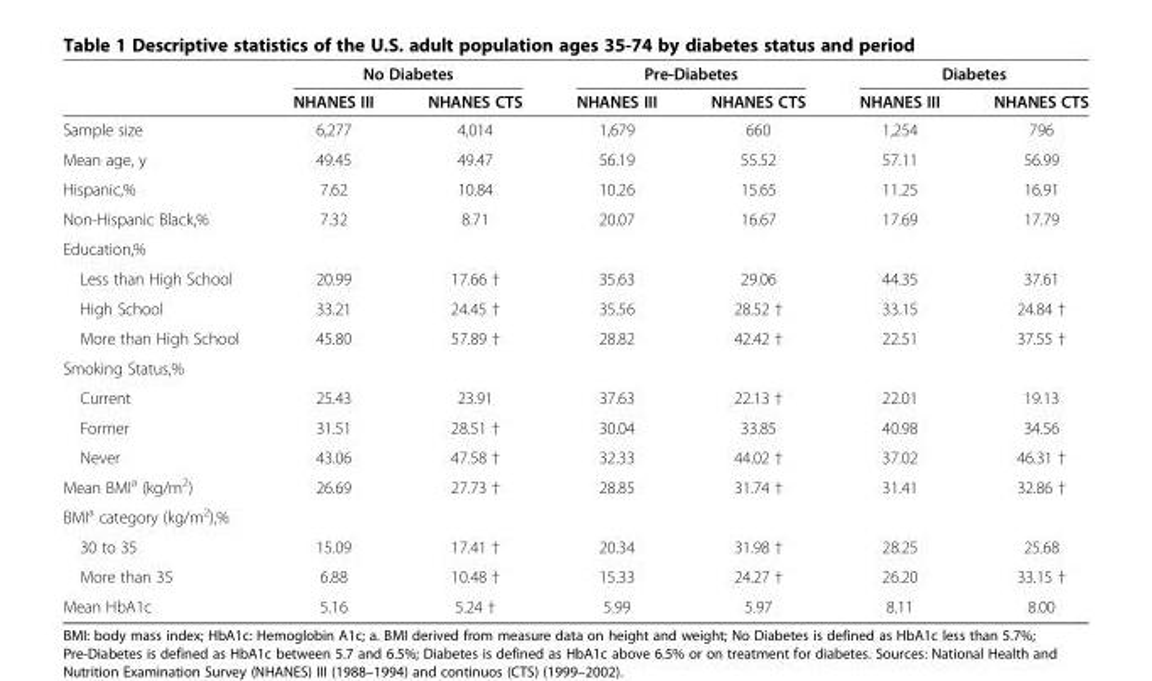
<table><thead><tr><td rowspan="2"></td><td colspan="2">No Diabetes</td><td colspan="2">Pre-Diabetes</td><td colspan="2">Diabetes</td></tr><tr><td>NHANES III</td><td>NHANES CTS</td><td>NHANES III</td><td>NHANES CTS</td><td>NHANES III</td><td>NHANES CTS</td></tr></thead><tbody><tr><td>Sample size</td><td>6,277</td><td>4,014</td><td>1,679</td><td>660</td><td>1,254</td><td>796</td></tr><tr><td>Mean age, y</td><td>49.45</td><td>49.47</td><td>56.19</td><td>55.52</td><td>57.11</td><td>56.99</td></tr><tr><td>Hispanic,%</td><td>7.62</td><td>10.84</td><td>10.26</td><td>15.65</td><td>11.25</td><td>16.91</td></tr><tr><td>Non-Hispanic Black,%</td><td>7.32</td><td>8.71</td><td>20.07</td><td>16.67</td><td>17.69</td><td>17.79</td></tr><tr><td colspan="7">Education,%</td></tr><tr><td>Less than High School</td><td>20.99</td><td>17.66 †</td><td>35.63</td><td>29.06</td><td>44.35</td><td>37.61</td></tr><tr><td>High School</td><td>33.21</td><td>24.45 †</td><td>35.56</td><td>28.52 †</td><td>33.15</td><td>24.84 †</td></tr><tr><td>More than High School</td><td>45.80</td><td>57.89 †</td><td>28.82</td><td>42.42 †</td><td>22.51</td><td>37.55 †</td></tr><tr><td colspan="7">Smoking Status,%</td></tr><tr><td>Current</td><td>25.43</td><td>23.91</td><td>37.63</td><td>22.13 †</td><td>22.01</td><td>19.13</td></tr><tr><td>Former</td><td>31.51</td><td>28.51 †</td><td>30.04</td><td>33.85</td><td>40.98</td><td>34.56</td></tr><tr><td>Never</td><td>43.06</td><td>47.58 †</td><td>32.33</td><td>44.02 †</td><td>37.02</td><td>46.31 †</td></tr><tr><td>Mean BMI<sup>a</sup> (kg/m<sup>2</sup>)</td><td>26.69</td><td>27.73 †</td><td>28.85</td><td>31.74 †</td><td>31.41</td><td>32.86 †</td></tr><tr><td colspan="7">BMI<sup>a</sup> category (kg/m<sup>2</sup>),%</td></tr><tr><td>30 to 35</td><td>15.09</td><td>17.41 †</td><td>20.34</td><td>31.98 †</td><td>28.25</td><td>25.68</td></tr><tr><td>More than 35</td><td>6.88</td><td>10.48 †</td><td>15.33</td><td>24.27 †</td><td>26.20</td><td>33.15 †</td></tr><tr><td>Mean HbA1c</td><td>5.16</td><td>5.24 †</td><td>5.99</td><td>5.97</td><td>8.11</td><td>8.00</td></tr></tbody></table>